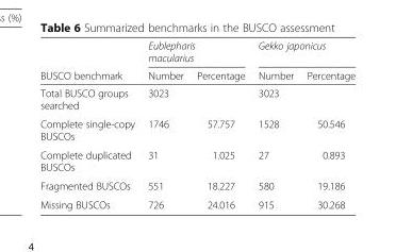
<table><thead><tr><td rowspan="2">BUSCO benchmark</td><td colspan="2">Eublepharis macularius</td><td colspan="2">Gekko japonicus</td></tr><tr><td>Number</td><td>Percentage</td><td>Number</td><td>Percentage</td></tr></thead><tbody><tr><td>Total BUSCO groups searched</td><td>3023</td><td></td><td>3023</td><td></td></tr><tr><td>Complete single-copy BUSCOs</td><td>1746</td><td>57.757</td><td>1528</td><td>50.546</td></tr><tr><td>Complete duplicated BUSCOs</td><td>31</td><td>1.025</td><td>27</td><td>0.893</td></tr><tr><td>Fragmented BUSCOs</td><td>551</td><td>18.227</td><td>580</td><td>19.186</td></tr><tr><td>Missing BUSCOs</td><td>726</td><td>24.016</td><td>915</td><td>30.268</td></tr></tbody></table>